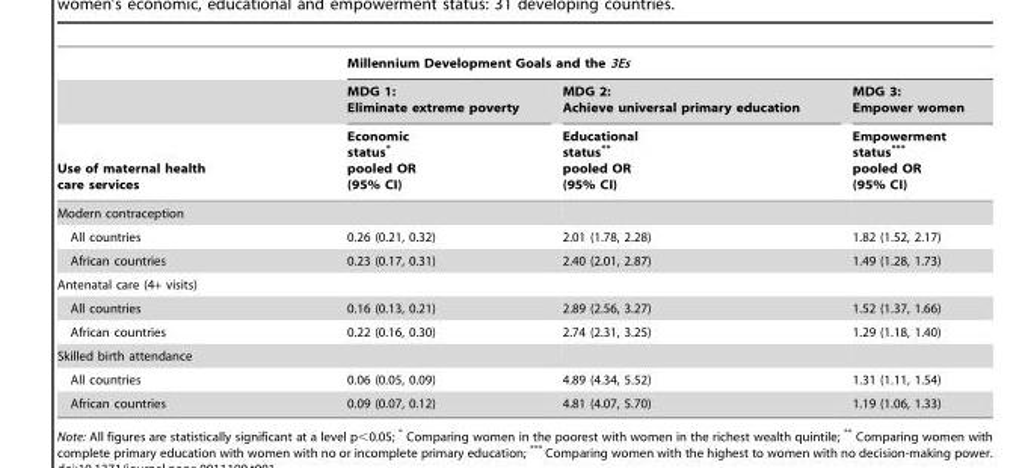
<table><thead><tr><td rowspan="3">Use of maternal health care services</td><td colspan="3">Millennium Development Goals and the 3Es</td></tr><tr><td rowspan="2">MDG 1: Eliminate extreme poverty Economic status* pooled OR (95% CI)</td><td rowspan="2">MDG 2: Achieve universal primary education Educational status** pooled OR (95% CI)</td><td rowspan="2">MDG 3: Empower women Empowerment status*** pooled OR (95% CI)</td></tr><tr></tr></thead><tbody><tr><td colspan="4">Modern contraception</td></tr><tr><td>All countries</td><td>0.26 (0.21, 0.32)</td><td>2.01 (1.78, 2.28)</td><td>1.82 (1.52, 2.17)</td></tr><tr><td>African countries</td><td>0.23 (0.17, 0.31)</td><td>2.40 (2.01, 2.87)</td><td>1.49 (1.28, 1.73)</td></tr><tr><td colspan="4">Antenatal care (4+ visits)</td></tr><tr><td>All countries</td><td>0.16 (0.13, 0.21)</td><td>2.89 (2.56, 3.27)</td><td>1.52 (1.37, 1.66)</td></tr><tr><td>African countries</td><td>0.22 (0.16, 0.30)</td><td>2.74 (2.31, 3.25)</td><td>1.29 (1.18, 1.40)</td></tr><tr><td colspan="4">Skilled birth attendance</td></tr><tr><td>All countries</td><td>0.06 (0.05, 0.09)</td><td>4.89 (4.34, 5.52)</td><td>1.31 (1.11, 1.54)</td></tr><tr><td>African countries</td><td>0.09 (0.07, 0.12)</td><td>4.81 (4.07, 5.70)</td><td>1.19 (1.06, 1.33)</td></tr></tbody></table>